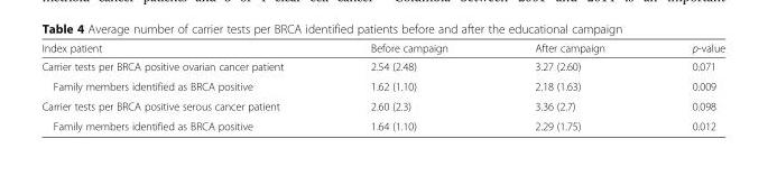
<table><thead><tr><td>Index patient</td><td>Before campaign</td><td>After campaign</td><td>p-value</td></tr></thead><tbody><tr><td>Carrier tests per BRCA positive ovarian cancer patient</td><td>2.54 (2.48)</td><td>3.27 (2.60)</td><td>0.071</td></tr><tr><td>Family members identified as BRCA positive</td><td>1.62 (1.10)</td><td>2.18 (1.63)</td><td>0.009</td></tr><tr><td>Carrier tests per BRCA positive serous cancer patient</td><td>2.60 (2.3)</td><td>3.36 (2.7)</td><td>0.098</td></tr><tr><td>Family members identified as BRCA positive</td><td>1.64 (1.10)</td><td>2.29 (1.75)</td><td>0.012</td></tr></tbody></table>